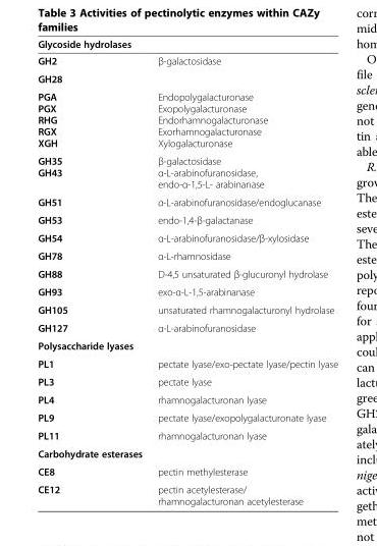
<table><thead><tr><td>Glycoside hydrolases</td><td></td></tr></thead><tbody><tr><td>GH2</td><td>β-galactosidase</td></tr><tr><td colspan="2">GH28</td></tr><tr><td>PGA PGX RHG RGX XGH</td><td>Endopolygalacturonase Exopolygalacturonase Endorhamnogalacturonase Exorhamnogalacturonase Xylogalacturonase</td></tr><tr><td>GH35 GH43</td><td>β-galactosidase α-L-arabinofuranosidase, endo-α-1,5-L- arabinanase</td></tr><tr><td>GH51</td><td>α-L-arabinofuranosidase/endoglucanase</td></tr><tr><td>GH53</td><td>endo-1,4-β-galactanase</td></tr><tr><td>GH54</td><td>α-L-arabinofuranosidase/β-xylosidase</td></tr><tr><td>GH78</td><td>α-L-rhamnosidase</td></tr><tr><td>GH88</td><td>D-4,5 unsaturated β-glucuronyl hydrolase</td></tr><tr><td>GH93</td><td>exo-α-L-1,5-arabinanase</td></tr><tr><td>GH105</td><td>unsaturated rhamnogalacturonyl hydrolase</td></tr><tr><td>GH127</td><td>α-L-arabinofuranosidase</td></tr><tr><td colspan="2">Polysaccharide lyases</td></tr><tr><td>PL1</td><td>pectate lyase/exo-pectate lyase/pectin lyase</td></tr><tr><td>PL3</td><td>pectate lyase</td></tr><tr><td>PL4</td><td>rhamnogalacturonan lyase</td></tr><tr><td>PL9</td><td>pectate lyase/exopolygalacturonate lyase</td></tr><tr><td>PL11</td><td>rhamnogalacturonan lyase</td></tr><tr><td colspan="2">Carbohydrate esterases</td></tr><tr><td>CE8</td><td>pectin methylesterase</td></tr><tr><td>CE12</td><td>pectin acetylesterase/ rhamnogalacturonan acetylesterase</td></tr></tbody></table>